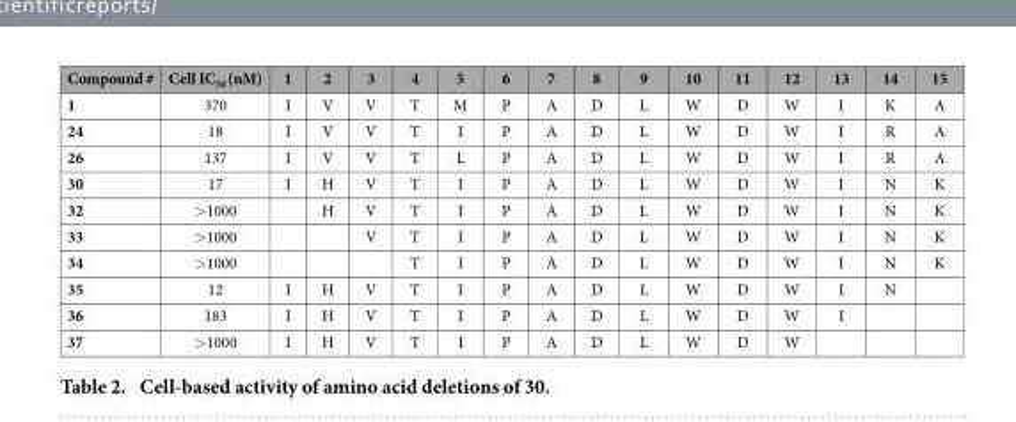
<table><thead><tr><td>Compound #</td><td>Cell IC<sub>50</sub> (nM)</td><td>1</td><td>2</td><td>3</td><td>4</td><td>5</td><td>6</td><td>7</td><td>8</td><td>9</td><td>10</td><td>11</td><td>12</td><td>13</td><td>14</td><td>15</td></tr></thead><tbody><tr><td>1</td><td>370</td><td>I</td><td>V</td><td>V</td><td>T</td><td>M</td><td>P</td><td>A</td><td>D</td><td>L</td><td>W</td><td>D</td><td>W</td><td>I</td><td>K</td><td>A</td></tr><tr><td>24</td><td>18</td><td>I</td><td>V</td><td>V</td><td>T</td><td>I</td><td>P</td><td>A</td><td>D</td><td>L</td><td>W</td><td>D</td><td>W</td><td>I</td><td>R</td><td>A</td></tr><tr><td>26</td><td>137</td><td>I</td><td>V</td><td>V</td><td>T</td><td>L</td><td>P</td><td>A</td><td>D</td><td>L</td><td>W</td><td>D</td><td>W</td><td>I</td><td>R</td><td>A</td></tr><tr><td>30</td><td>17</td><td>I</td><td>H</td><td>V</td><td>T</td><td>I</td><td>P</td><td>A</td><td>D</td><td>L</td><td>W</td><td>D</td><td>W</td><td>I</td><td>N</td><td>K</td></tr><tr><td>32</td><td>&gt;1000</td><td></td><td>H</td><td>V</td><td>T</td><td>I</td><td>P</td><td>A</td><td>D</td><td>L</td><td>W</td><td>D</td><td>W</td><td>I</td><td>N</td><td>K</td></tr><tr><td>33</td><td>&gt;1000</td><td></td><td></td><td>V</td><td>T</td><td>I</td><td>P</td><td>A</td><td>D</td><td>L</td><td>W</td><td>D</td><td>W</td><td>I</td><td>N</td><td>K</td></tr><tr><td>34</td><td>&gt;1000</td><td></td><td></td><td></td><td>T</td><td>I</td><td>P</td><td>A</td><td>D</td><td>L</td><td>W</td><td>D</td><td>W</td><td>I</td><td>N</td><td>K</td></tr><tr><td>35</td><td>12</td><td>I</td><td>H</td><td>V</td><td>T</td><td>I</td><td>P</td><td>A</td><td>D</td><td>L</td><td>W</td><td>D</td><td>W</td><td>I</td><td>N</td><td></td></tr><tr><td>36</td><td>183</td><td>I</td><td>H</td><td>V</td><td>T</td><td>I</td><td>P</td><td>A</td><td>D</td><td>L</td><td>W</td><td>D</td><td>W</td><td>I</td><td></td><td></td></tr><tr><td>37</td><td>&gt;1000</td><td>I</td><td>H</td><td>V</td><td>T</td><td>I</td><td>P</td><td>A</td><td>D</td><td>L</td><td>W</td><td>D</td><td>W</td><td></td><td></td><td></td></tr></tbody></table>